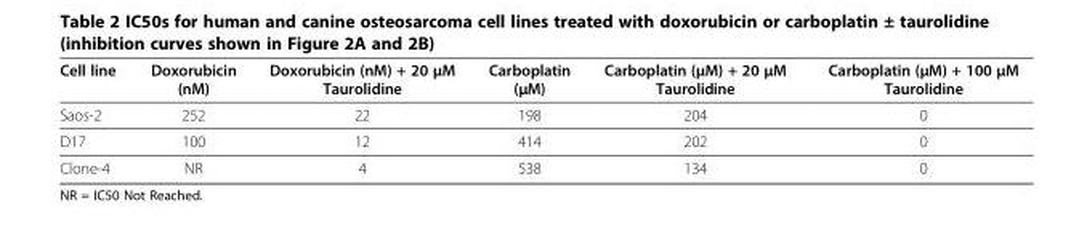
<table><thead><tr><td>Cell line</td><td>Doxorubicin (nM)</td><td>Doxorubicin (nM) + 20 μM Taurolidine</td><td>Carboplatin (μM)</td><td>Carboplatin (μM) + 20 μM Taurolidine</td><td>Carboplatin (μM) + 100 μM Taurolidine</td></tr></thead><tbody><tr><td>Saos-2</td><td>252</td><td>22</td><td>198</td><td>204</td><td>0</td></tr><tr><td>D17</td><td>100</td><td>12</td><td>414</td><td>202</td><td>0</td></tr><tr><td>Clone-4</td><td>NR</td><td>4</td><td>538</td><td>134</td><td>0</td></tr></tbody></table>